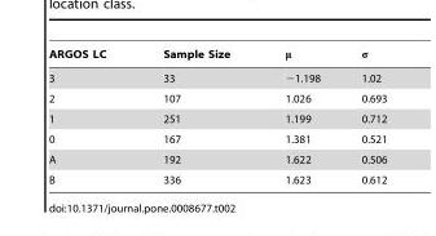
<table><thead><tr><td>ARGOS LC</td><td>Sample Size</td><td>μ</td><td>σ</td></tr></thead><tbody><tr><td>3</td><td>33</td><td>−1.198</td><td>1.02</td></tr><tr><td>2</td><td>107</td><td>1.026</td><td>0.693</td></tr><tr><td>1</td><td>251</td><td>1.199</td><td>0.712</td></tr><tr><td>0</td><td>167</td><td>1.381</td><td>0.521</td></tr><tr><td>A</td><td>192</td><td>1.622</td><td>0.506</td></tr><tr><td>B</td><td>336</td><td>1.623</td><td>0.612</td></tr></tbody></table>